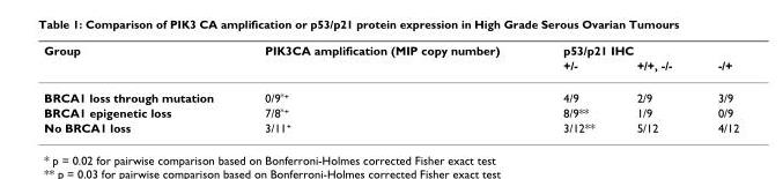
<table><thead><tr><td rowspan="2">Group</td><td rowspan="2">PIK3CA amplification (MIP copy number)</td><td colspan="3">p53/p21 IHC</td></tr><tr><td>+/-</td><td>+/+, -/-</td><td>-/+</td></tr></thead><tbody><tr><td>BRCA1 loss through mutation</td><td>0/9<sup>*+</sup></td><td>4/9</td><td>2/9</td><td>3/9</td></tr><tr><td>BRCA1 epigenetic loss</td><td>7/8<sup>*+</sup></td><td>8/9**</td><td>1/9</td><td>0/9</td></tr><tr><td>No BRCA1 loss</td><td>3/11<sup>+</sup></td><td>3/12**</td><td>5/12</td><td>4/12</td></tr></tbody></table>